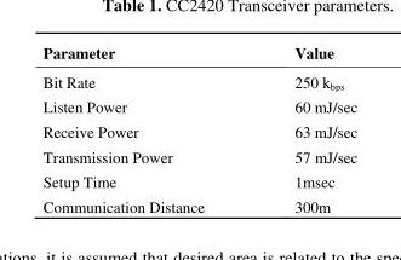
<table><thead><tr><td>Parameter</td><td>Value</td></tr></thead><tbody><tr><td>Bit Rate</td><td>250 k<sub>bps</sub></td></tr><tr><td>Listen Power</td><td>60 mJ/sec</td></tr><tr><td>Receive Power</td><td>63 mJ/sec</td></tr><tr><td>Transmission Power</td><td>57 mJ/sec</td></tr><tr><td>Setup Time</td><td>1msec</td></tr><tr><td>Communication Distance</td><td>300m</td></tr></tbody></table>